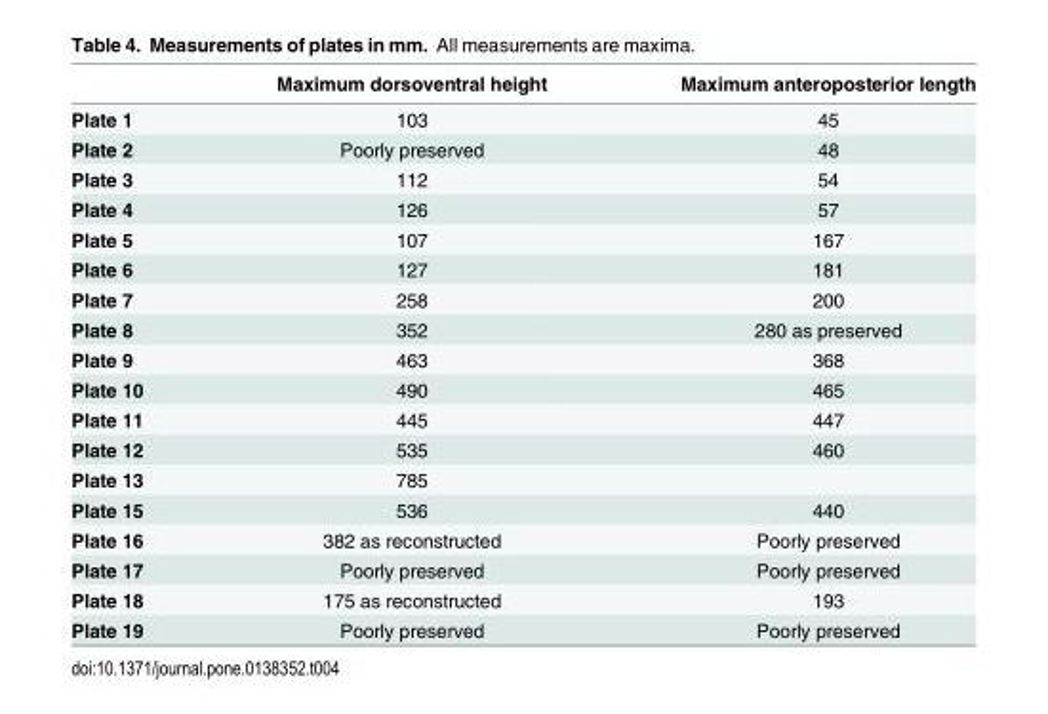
<table><thead><tr><td></td><td>Maximum dorsoventral height</td><td>Maximum anteroposterior length</td></tr></thead><tbody><tr><td>Plate 1</td><td>103</td><td>45</td></tr><tr><td>Plate 2</td><td>Poorly preserved</td><td>48</td></tr><tr><td>Plate 3</td><td>112</td><td>54</td></tr><tr><td>Plate 4</td><td>126</td><td>57</td></tr><tr><td>Plate 5</td><td>107</td><td>167</td></tr><tr><td>Plate 6</td><td>127</td><td>181</td></tr><tr><td>Plate 7</td><td>258</td><td>200</td></tr><tr><td>Plate 8</td><td>352</td><td>280 as preserved</td></tr><tr><td>Plate 9</td><td>463</td><td>368</td></tr><tr><td>Plate 10</td><td>490</td><td>465</td></tr><tr><td>Plate 11</td><td>445</td><td>447</td></tr><tr><td>Plate 12</td><td>535</td><td>460</td></tr><tr><td>Plate 13</td><td>785</td><td></td></tr><tr><td>Plate 15</td><td>536</td><td>440</td></tr><tr><td>Plate 16</td><td>382 as reconstructed</td><td>Poorly preserved</td></tr><tr><td>Plate 17</td><td>Poorly preserved</td><td>Poorly preserved</td></tr><tr><td>Plate 18</td><td>175 as reconstructed</td><td>193</td></tr><tr><td>Plate 19</td><td>Poorly preserved</td><td>Poorly preserved</td></tr></tbody></table>